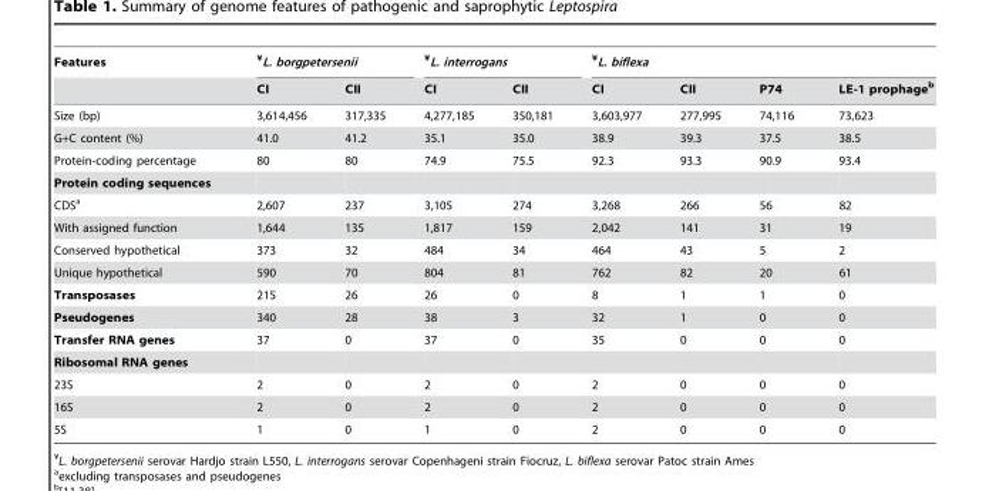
<table><thead><tr><td rowspan="2">Features</td><td colspan="2">¥L. borgpetersenii</td><td colspan="2">¥L. interrogans</td><td colspan="4">¥L. biflexa</td></tr><tr><td>CI</td><td>CII</td><td>CI</td><td>CII</td><td>CI</td><td>CII</td><td>P74</td><td>LE-1 prophage<sup>b</sup></td></tr></thead><tbody><tr><td>Size (bp)</td><td>3,614,456</td><td>317,335</td><td>4,277,185</td><td>350,181</td><td>3,603,977</td><td>277,995</td><td>74,116</td><td>73,623</td></tr><tr><td>G+C content (%)</td><td>41.0</td><td>41.2</td><td>35.1</td><td>35.0</td><td>38.9</td><td>39.3</td><td>37.5</td><td>38.5</td></tr><tr><td>Protein-coding percentage</td><td>80</td><td>80</td><td>74.9</td><td>75.5</td><td>92.3</td><td>93.3</td><td>90.9</td><td>93.4</td></tr><tr><td colspan="9">Protein coding sequences</td></tr><tr><td>CDS<sup>a</sup></td><td>2,607</td><td>237</td><td>3,105</td><td>274</td><td>3,268</td><td>266</td><td>56</td><td>82</td></tr><tr><td>With assigned function</td><td>1,644</td><td>135</td><td>1,817</td><td>159</td><td>2,042</td><td>141</td><td>31</td><td>19</td></tr><tr><td>Conserved hypothetical</td><td>373</td><td>32</td><td>484</td><td>34</td><td>464</td><td>43</td><td>5</td><td>2</td></tr><tr><td>Unique hypothetical</td><td>590</td><td>70</td><td>804</td><td>81</td><td>762</td><td>82</td><td>20</td><td>61</td></tr><tr><td>Transposases</td><td>215</td><td>26</td><td>26</td><td>0</td><td>8</td><td>1</td><td>1</td><td>0</td></tr><tr><td>Pseudogenes</td><td>340</td><td>28</td><td>38</td><td>3</td><td>32</td><td>1</td><td>0</td><td>0</td></tr><tr><td>Transfer RNA genes</td><td>37</td><td>0</td><td>37</td><td>0</td><td>35</td><td>0</td><td>0</td><td>0</td></tr><tr><td colspan="9">Ribosomal RNA genes</td></tr><tr><td>23S</td><td>2</td><td>0</td><td>2</td><td>0</td><td>2</td><td>0</td><td>0</td><td>0</td></tr><tr><td>16S</td><td>2</td><td>0</td><td>2</td><td>0</td><td>2</td><td>0</td><td>0</td><td>0</td></tr><tr><td>5S</td><td>1</td><td>0</td><td>1</td><td>0</td><td>2</td><td>0</td><td>0</td><td>0</td></tr></tbody></table>